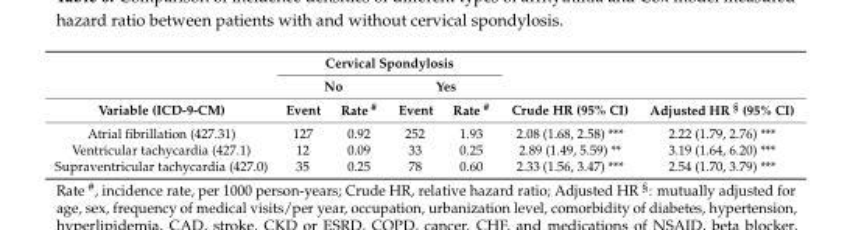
<table><thead><tr><td rowspan="3">Variable (ICD-9-CM)</td><td colspan="4">Cervical Spondylosis</td><td rowspan="3">Crude HR (95% CI)</td><td rowspan="3">Adjusted HR <sup>§</sup> (95% CI)</td></tr><tr><td colspan="2">No</td><td colspan="2">Yes</td></tr><tr><td>Event</td><td>Rate <sup>#</sup></td><td>Event</td><td>Rate <sup>#</sup></td></tr></thead><tbody><tr><td>Atrial fibrillation (427.31)</td><td>127</td><td>0.92</td><td>252</td><td>1.93</td><td>2.08 (1.68, 2.58) ***</td><td>2.22 (1.79, 2.76) ***</td></tr><tr><td>Ventricular tachycardia (427.1)</td><td>12</td><td>0.09</td><td>33</td><td>0.25</td><td>2.89 (1.49, 5.59) **</td><td>3.19 (1.64, 6.20) ***</td></tr><tr><td>Supraventricular tachycardia (427.0)</td><td>35</td><td>0.25</td><td>78</td><td>0.60</td><td>2.33 (1.56, 3.47) ***</td><td>2.54 (1.70, 3.79) ***</td></tr></tbody></table>